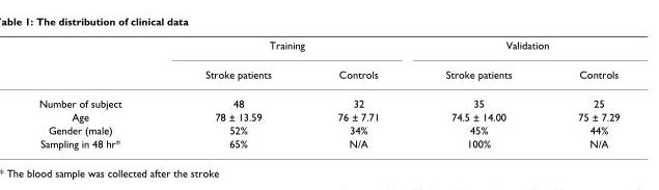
<table><thead><tr><td rowspan="2"></td><td colspan="2">Training</td><td colspan="2">Validation</td></tr><tr><td>Stroke patients</td><td>Controls</td><td>Stroke patients</td><td>Controls</td></tr></thead><tbody><tr><td>Number of subject</td><td>48</td><td>32</td><td>35</td><td>25</td></tr><tr><td>Age</td><td>78 ± 13.59</td><td>76 ± 7.71</td><td>74.5 ± 14.00</td><td>75 ± 7.29</td></tr><tr><td>Gender (male)</td><td>52%</td><td>34%</td><td>45%</td><td>44%</td></tr><tr><td>Sampling in 48 hr*</td><td>65%</td><td>N/A</td><td>100%</td><td>N/A</td></tr></tbody></table>